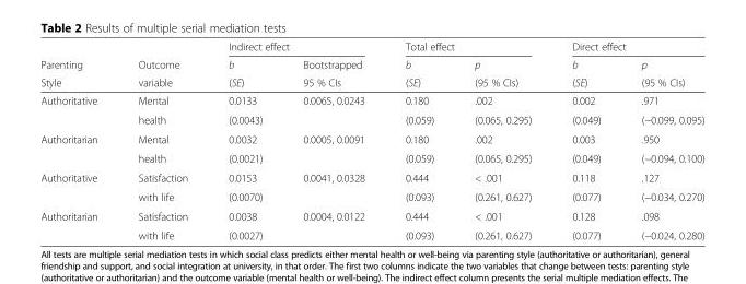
<table><thead><tr><td rowspan="3">Parenting Style</td><td rowspan="3">Outcome variable</td><td colspan="2">Indirect effect</td><td colspan="2">Total effect</td><td colspan="2">Direct effect</td></tr><tr><td rowspan="2">b (SE)</td><td rowspan="2">Bootstrapped 95 % CIs</td><td rowspan="2">b (SE)</td><td rowspan="2">p (95 % CIs)</td><td rowspan="2">b (SE)</td><td rowspan="2">p (95 % CIs)</td></tr><tr></tr></thead><tbody><tr><td rowspan="2">Authoritative</td><td>Mental</td><td>0.0133</td><td rowspan="2">0.0065, 0.0243</td><td>0.180</td><td>.002</td><td>0.002</td><td>.971</td></tr><tr><td>health</td><td>(0.0043)</td><td>(0.059)</td><td>(0.065, 0.295)</td><td>(0.049)</td><td>(−0.099, 0.095)</td></tr><tr><td rowspan="2">Authoritarian</td><td>Mental</td><td>0.0032</td><td rowspan="2">0.0005, 0.0091</td><td>0.180</td><td>.002</td><td>0.003</td><td>.950</td></tr><tr><td>health</td><td>(0.0021)</td><td>(0.059)</td><td>(0.065, 0.295)</td><td>(0.049)</td><td>(−0.094, 0.100)</td></tr><tr><td rowspan="2">Authoritative</td><td>Satisfaction</td><td>0.0153</td><td rowspan="2">0.0041, 0.0328</td><td>0.444</td><td>&lt; .001</td><td>0.118</td><td>.127</td></tr><tr><td>with life</td><td>(0.0070)</td><td>(0.093)</td><td>(0.261, 0.627)</td><td>(0.077)</td><td>(−0.034, 0.270)</td></tr><tr><td rowspan="2">Authoritarian</td><td>Satisfaction</td><td>0.0038</td><td rowspan="2">0.0004, 0.0122</td><td>0.444</td><td>&lt; .001</td><td>0.128</td><td>.098</td></tr><tr><td>with life</td><td>(0.0027)</td><td>(0.093)</td><td>(0.261, 0.627)</td><td>(0.077)</td><td>(−0.024, 0.280)</td></tr></tbody></table>